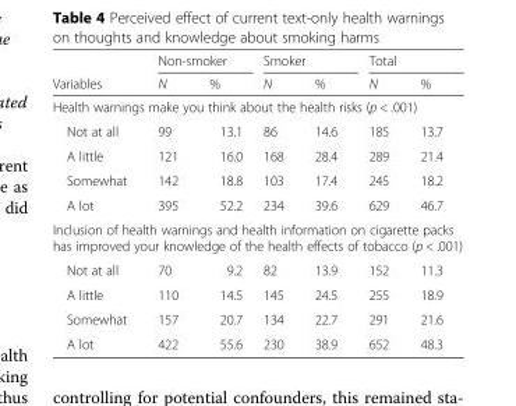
<table><thead><tr><td rowspan="2">Variables</td><td colspan="2">Non-smoker</td><td colspan="2">Smoker</td><td colspan="2">Total</td></tr><tr><td>N</td><td>%</td><td>N</td><td>%</td><td>N</td><td>%</td></tr></thead><tbody><tr><td colspan="7">Health warnings make you think about the health risks (p &lt; .001)</td></tr><tr><td>Not at all</td><td>99</td><td>13.1</td><td>86</td><td>14.6</td><td>185</td><td>13.7</td></tr><tr><td>A little</td><td>121</td><td>16.0</td><td>168</td><td>28.4</td><td>289</td><td>21.4</td></tr><tr><td>Somewhat</td><td>142</td><td>18.8</td><td>103</td><td>17.4</td><td>245</td><td>18.2</td></tr><tr><td>A lot</td><td>395</td><td>52.2</td><td>234</td><td>39.6</td><td>629</td><td>46.7</td></tr><tr><td colspan="7">Inclusion of health warnings and health information on cigarette packs has improved your knowledge of the health effects of tobacco (p &lt; .001)</td></tr><tr><td>Not at all</td><td>70</td><td>9.2</td><td>82</td><td>13.9</td><td>152</td><td>11.3</td></tr><tr><td>A little</td><td>110</td><td>14.5</td><td>145</td><td>24.5</td><td>255</td><td>18.9</td></tr><tr><td>Somewhat</td><td>157</td><td>20.7</td><td>134</td><td>22.7</td><td>291</td><td>21.6</td></tr><tr><td>A lot</td><td>422</td><td>55.6</td><td>230</td><td>38.9</td><td>652</td><td>48.3</td></tr></tbody></table>